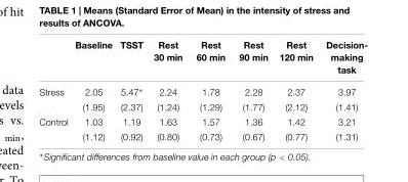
<table><thead><tr><td></td><td>Baseline</td><td>TSST</td><td>Rest 30 min</td><td>Rest 60 min</td><td>Rest 90 min</td><td>Rest 120 min</td><td>Decision- making task</td></tr></thead><tbody><tr><td rowspan="2">Stress</td><td>2.05</td><td>5.47∗</td><td>2.24</td><td>1.78</td><td>2.28</td><td>2.37</td><td>3.97</td></tr><tr><td>(1.95)</td><td>(2.37)</td><td>(1.24)</td><td>(1.29)</td><td>(1.77)</td><td>(2.12)</td><td>(1.41)</td></tr><tr><td rowspan="2">Control</td><td>1.03</td><td>1.19</td><td>1.63</td><td>1.57</td><td>1.36</td><td>1.42</td><td>3.21</td></tr><tr><td>(1.12)</td><td>(0.92)</td><td>(0.80)</td><td>(0.73)</td><td>(0.67)</td><td>(0.77)</td><td>(1.31)</td></tr></tbody></table>